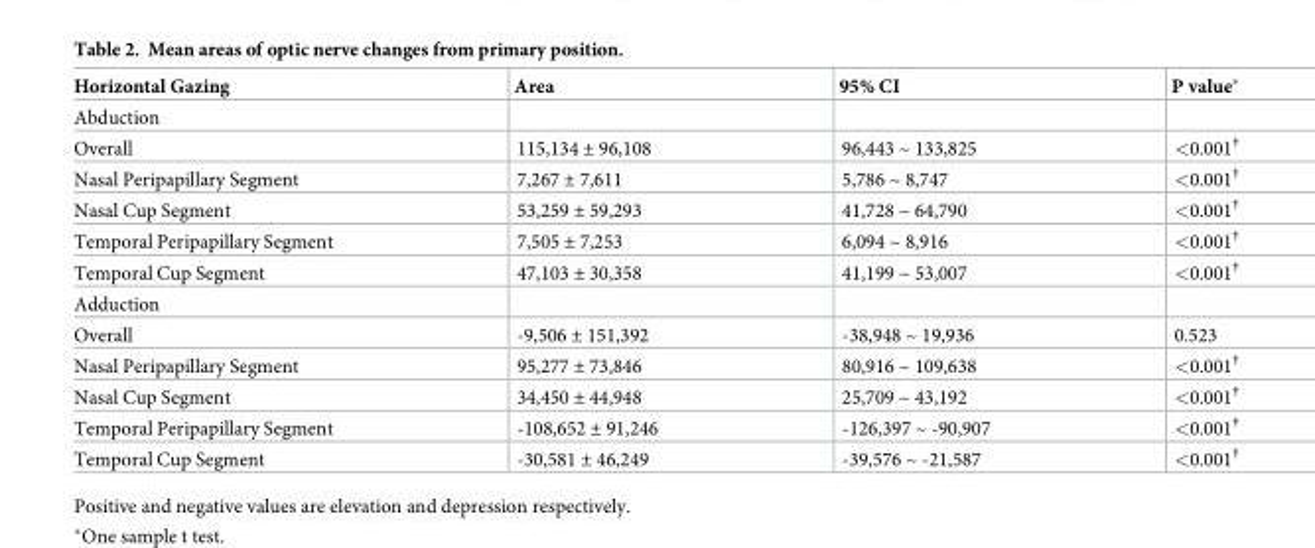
<table><thead><tr><td>Horizontal Gazing</td><td>Area</td><td>95% CI</td><td>P value*</td></tr></thead><tbody><tr><td colspan="4">Abduction</td></tr><tr><td>Overall</td><td>115,134 ± 96,108</td><td>96,443 ~ 133,825</td><td>&lt;0.001<sup>†</sup></td></tr><tr><td>Nasal Peripapillary Segment</td><td>7,267 ± 7,611</td><td>5,786 ~ 8,747</td><td>&lt;0.001<sup>†</sup></td></tr><tr><td>Nasal Cup Segment</td><td>53,259 ± 59,293</td><td>41,728 ~ 64,790</td><td>&lt;0.001<sup>†</sup></td></tr><tr><td>Temporal Peripapillary Segment</td><td>7,505 ± 7,253</td><td>6,094 ~ 8,916</td><td>&lt;0.001<sup>†</sup></td></tr><tr><td>Temporal Cup Segment</td><td>47,103 ± 30,358</td><td>41,199 ~ 53,007</td><td>&lt;0.001<sup>†</sup></td></tr><tr><td colspan="4">Adduction</td></tr><tr><td>Overall</td><td>-9,506 ± 151,392</td><td>-38,948 ~ 19,936</td><td>0.523</td></tr><tr><td>Nasal Peripapillary Segment</td><td>95,277 ± 73,846</td><td>80,916 ~ 109,638</td><td>&lt;0.001<sup>†</sup></td></tr><tr><td>Nasal Cup Segment</td><td>34,450 ± 44,948</td><td>25,709 ~ 43,192</td><td>&lt;0.001<sup>†</sup></td></tr><tr><td>Temporal Peripapillary Segment</td><td>-108,652 ± 91,246</td><td>-126,397 ~ -90,907</td><td>&lt;0.001<sup>†</sup></td></tr><tr><td>Temporal Cup Segment</td><td>-30,581 ± 46,249</td><td>-39,576 ~ -21,587</td><td>&lt;0.001<sup>†</sup></td></tr></tbody></table>